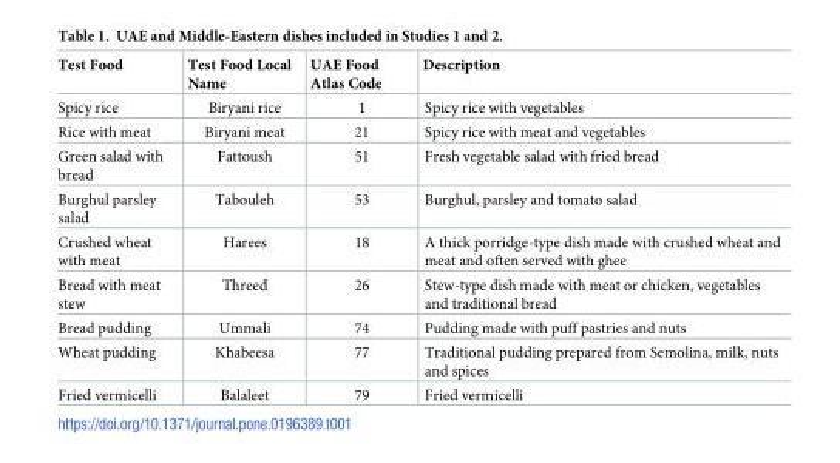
<table><thead><tr><td>Test Food</td><td>Test Food Local Name</td><td>UAE Food Atlas Code</td><td>Description</td></tr></thead><tbody><tr><td>Spicy rice</td><td>Biryani rice</td><td>1</td><td>Spicy rice with vegetables</td></tr><tr><td>Rice with meat</td><td>Biryani meat</td><td>21</td><td>Spicy rice with meat and vegetables</td></tr><tr><td>Green salad with bread</td><td>Fattoush</td><td>51</td><td>Fresh vegetable salad with fried bread</td></tr><tr><td>Burghul parsley salad</td><td>Tabouleh</td><td>53</td><td>Burghul, parsley and tomato salad</td></tr><tr><td>Crushed wheat with meat</td><td>Harees</td><td>18</td><td>A thick porridge-type dish made with crushed wheat and meat and often served with ghee</td></tr><tr><td>Bread with meat stew</td><td>Threed</td><td>26</td><td>Stew-type dish made with meat or chicken, vegetables and traditional bread</td></tr><tr><td>Bread pudding</td><td>Ummali</td><td>74</td><td>Pudding made with puff pastries and nuts</td></tr><tr><td>Wheat pudding</td><td>Khabeesa</td><td>77</td><td>Traditional pudding prepared from Semolina, milk, nuts and spices</td></tr><tr><td>Fried vermicelli</td><td>Balaleet</td><td>79</td><td>Fried vermicelli</td></tr></tbody></table>